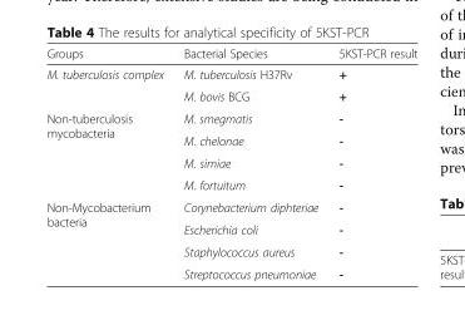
<table><thead><tr><td>Groups</td><td>Bacterial Species</td><td>5KST-PCR result</td></tr></thead><tbody><tr><td rowspan="2">M. tuberculosis complex</td><td>M. tuberculosis H37Rv</td><td>+</td></tr><tr><td>M. bovis BCG</td><td>+</td></tr><tr><td rowspan="4">Non-tuberculosis mycobacteria</td><td>M. smegmatis</td><td>-</td></tr><tr><td>M. chelonae</td><td>-</td></tr><tr><td>M. simiae</td><td>-</td></tr><tr><td>M. fortuitum</td><td>-</td></tr><tr><td rowspan="4">Non-Mycobacterium bacteria</td><td>Corynebacterium diphteriae</td><td>-</td></tr><tr><td>Escherichia coli</td><td>-</td></tr><tr><td>Staphylococcus aureus</td><td>-</td></tr><tr><td>Streptococcus pneumoniae</td><td>-</td></tr></tbody></table>